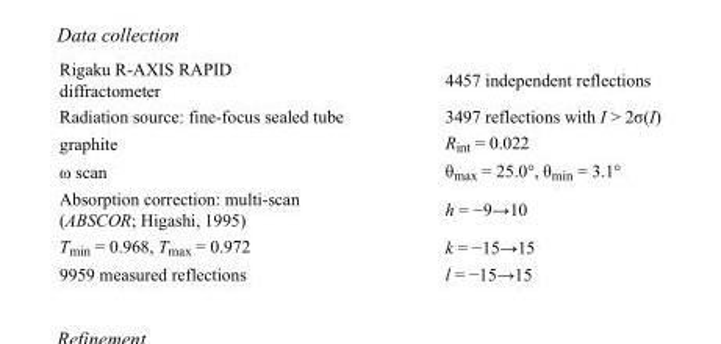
<table><tbody><tr><td>Rigaku R-AXIS RAPID diffractometer</td><td>4457 independent reflections</td></tr><tr><td>Radiation source: fine-focus sealed tube</td><td>3497 reflections with I &gt; 2σ(I)</td></tr><tr><td>graphite</td><td>R<sub>int</sub> = 0.022</td></tr><tr><td>ω scan</td><td>θ<sub>max</sub> = 25.0°, θ<sub>min</sub> = 3.1°</td></tr><tr><td>Absorption correction: multi-scan (ABSCOR; Higashi, 1995)</td><td>h = −9→10</td></tr><tr><td>T<sub>min</sub> = 0.968, T<sub>max</sub> = 0.972</td><td>k = −15→15</td></tr><tr><td>9959 measured reflections</td><td>l = −15→15</td></tr></tbody></table>